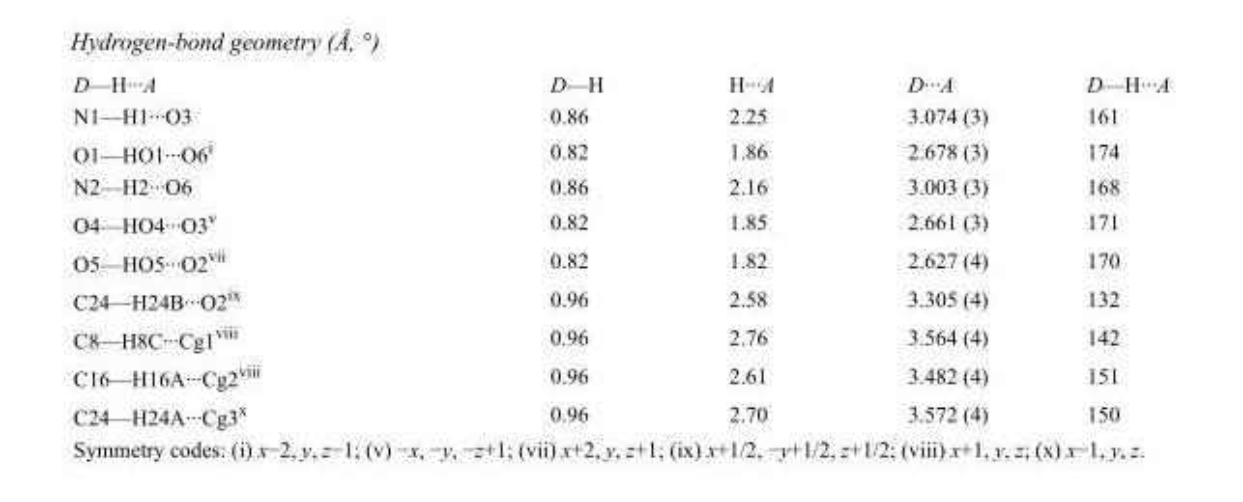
<table><tbody><tr><td>D—H···A</td><td>D—H</td><td>H···A</td><td>D···A</td><td>D—H···A</td></tr><tr><td>N1—H1···O3</td><td>0.86</td><td>2.25</td><td>3.074 (3)</td><td>161</td></tr><tr><td>O1—HO1···O6<sup>i</sup></td><td>0.82</td><td>1.86</td><td>2.678 (3)</td><td>174</td></tr><tr><td>N2—H2···O6</td><td>0.86</td><td>2.16</td><td>3.003 (3)</td><td>168</td></tr><tr><td>O4—HO4···O3<sup>v</sup></td><td>0.82</td><td>1.85</td><td>2.661 (3)</td><td>171</td></tr><tr><td>O5—HO5···O2<sup>vii</sup></td><td>0.82</td><td>1.82</td><td>2.627 (4)</td><td>170</td></tr><tr><td>C24—H24B···O2<sup>ix</sup></td><td>0.96</td><td>2.58</td><td>3.305 (4)</td><td>132</td></tr><tr><td>C8—H8C···Cg1<sup>viii</sup></td><td>0.96</td><td>2.76</td><td>3.564 (4)</td><td>142</td></tr><tr><td>C16—H16A···Cg2<sup>viii</sup></td><td>0.96</td><td>2.61</td><td>3.482 (4)</td><td>151</td></tr><tr><td>C24—H24A···Cg3<sup>x</sup></td><td>0.96</td><td>2.70</td><td>3.572 (4)</td><td>150</td></tr></tbody></table>